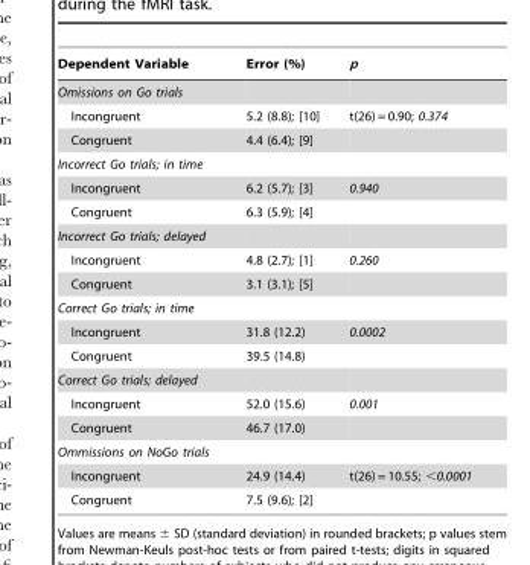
<table><thead><tr><td>Dependent Variable</td><td>Error (%)</td><td>p</td></tr></thead><tbody><tr><td colspan="3">Omissions on Go trials</td></tr><tr><td>Incongruent</td><td>5.2 (8.8); [10]</td><td>t(26) = 0.90; 0.374</td></tr><tr><td>Congruent</td><td>4.4 (6.4); [9]</td><td></td></tr><tr><td colspan="3">Incorrect Go trials; in time</td></tr><tr><td>Incongruent</td><td>6.2 (5.7); [3]</td><td>0.940</td></tr><tr><td>Congruent</td><td>6.3 (5.9); [4]</td><td></td></tr><tr><td colspan="3">Incorrect Go trials; delayed</td></tr><tr><td>Incongruent</td><td>4.8 (2.7); [1]</td><td>0.260</td></tr><tr><td>Congruent</td><td>3.1 (3.1); [5]</td><td></td></tr><tr><td colspan="3">Correct Go trials; in time</td></tr><tr><td>Incongruent</td><td>31.8 (12.2)</td><td>0.0002</td></tr><tr><td>Congruent</td><td>39.5 (14.8)</td><td></td></tr><tr><td colspan="3">Correct Go trials; delayed</td></tr><tr><td>Incongruent</td><td>52.0 (15.6)</td><td>0.001</td></tr><tr><td>Congruent</td><td>46.7 (17.0)</td><td></td></tr><tr><td colspan="3">Ommissions on NoGo trials</td></tr><tr><td>Incongruent</td><td>24.9 (14.4)</td><td>t(26) = 10.55; &lt;0.0001</td></tr><tr><td>Congruent</td><td>7.5 (9.6); [2]</td><td></td></tr></tbody></table>